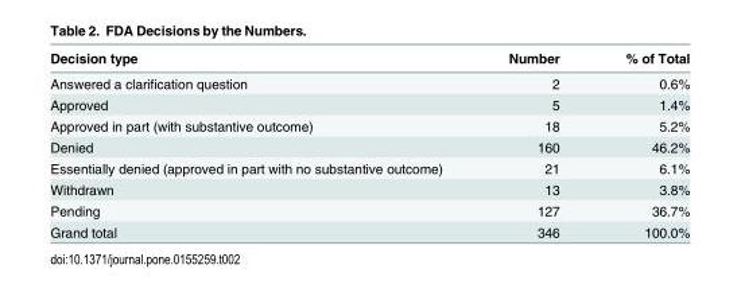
<table><thead><tr><td>Decision type</td><td>Number</td><td>% of Total</td></tr></thead><tbody><tr><td>Answered a clarification question</td><td>2</td><td>0.6%</td></tr><tr><td>Approved</td><td>5</td><td>1.4%</td></tr><tr><td>Approved in part (with substantive outcome)</td><td>18</td><td>5.2%</td></tr><tr><td>Denied</td><td>160</td><td>46.2%</td></tr><tr><td>Essentially denied (approved in part with no substantive outcome)</td><td>21</td><td>6.1%</td></tr><tr><td>Withdrawn</td><td>13</td><td>3.8%</td></tr><tr><td>Pending</td><td>127</td><td>36.7%</td></tr><tr><td>Grand total</td><td>346</td><td>100.0%</td></tr></tbody></table>